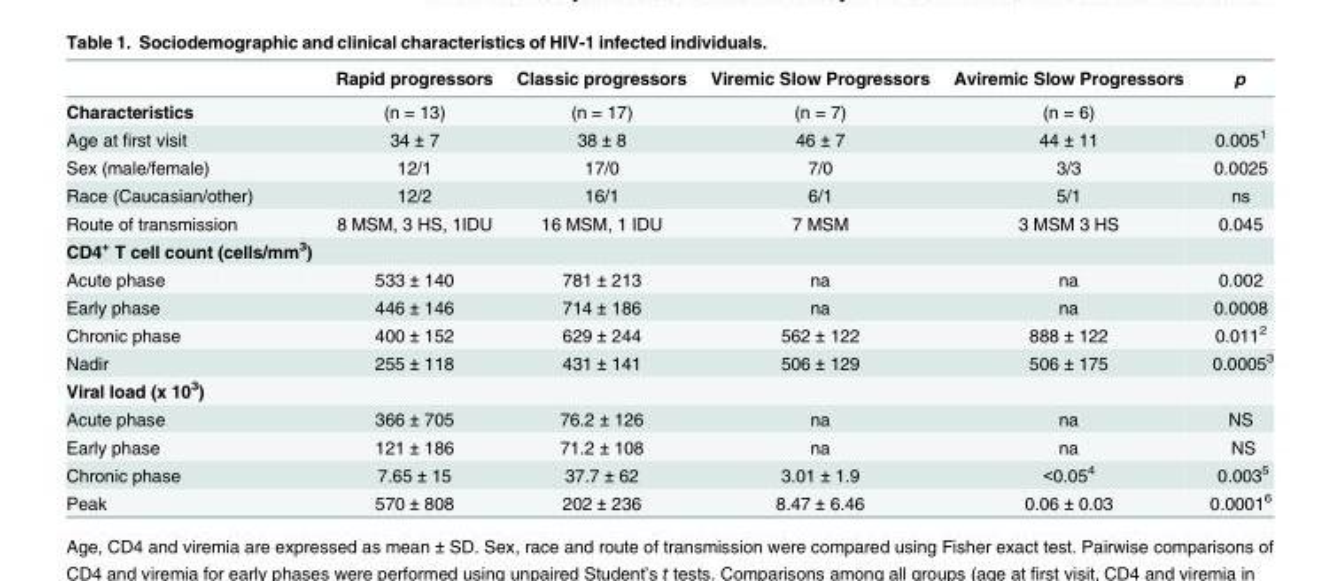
<table><thead><tr><td></td><td>Rapid progressors</td><td>Classic progressors</td><td>Viremic Slow Progressors</td><td>Aviremic Slow Progressors</td><td>p</td></tr></thead><tbody><tr><td>Characteristics</td><td>(n = 13)</td><td>(n = 17)</td><td>(n = 7)</td><td>(n = 6)</td><td></td></tr><tr><td>Age at first visit</td><td>34 ± 7</td><td>38 ± 8</td><td>46 ± 7</td><td>44 ± 11</td><td>0.005<sup>1</sup></td></tr><tr><td>Sex (male/female)</td><td>12/1</td><td>17/0</td><td>7/0</td><td>3/3</td><td>0.0025</td></tr><tr><td>Race (Caucasian/other)</td><td>12/2</td><td>16/1</td><td>6/1</td><td>5/1</td><td>ns</td></tr><tr><td>Route of transmission</td><td>8 MSM, 3 HS, 1IDU</td><td>16 MSM, 1 IDU</td><td>7 MSM</td><td>3 MSM 3 HS</td><td>0.045</td></tr><tr><td colspan="6">CD4<sup>+</sup> T cell count (cells/mm<sup>3</sup>)</td></tr><tr><td>Acute phase</td><td>533 ± 140</td><td>781 ± 213</td><td>na</td><td>na</td><td>0.002</td></tr><tr><td>Early phase</td><td>446 ± 146</td><td>714 ± 186</td><td>na</td><td>na</td><td>0.0008</td></tr><tr><td>Chronic phase</td><td>400 ± 152</td><td>629 ± 244</td><td>562 ± 122</td><td>888 ± 122</td><td>0.011<sup>2</sup></td></tr><tr><td>Nadir</td><td>255 ± 118</td><td>431 ± 141</td><td>506 ± 129</td><td>506 ± 175</td><td>0.0005<sup>3</sup></td></tr><tr><td colspan="6">Viral load (x 10<sup>3</sup>)</td></tr><tr><td>Acute phase</td><td>366 ± 705</td><td>76.2 ± 126</td><td>na</td><td>na</td><td>NS</td></tr><tr><td>Early phase</td><td>121 ± 186</td><td>71.2 ± 108</td><td>na</td><td>na</td><td>NS</td></tr><tr><td>Chronic phase</td><td>7.65 ± 15</td><td>37.7 ± 62</td><td>3.01 ± 1.9</td><td>&lt;0.05<sup>4</sup></td><td>0.003<sup>5</sup></td></tr><tr><td>Peak</td><td>570 ± 808</td><td>202 ± 236</td><td>8.47 ± 6.46</td><td>0.06 ± 0.03</td><td>0.0001<sup>6</sup></td></tr></tbody></table>